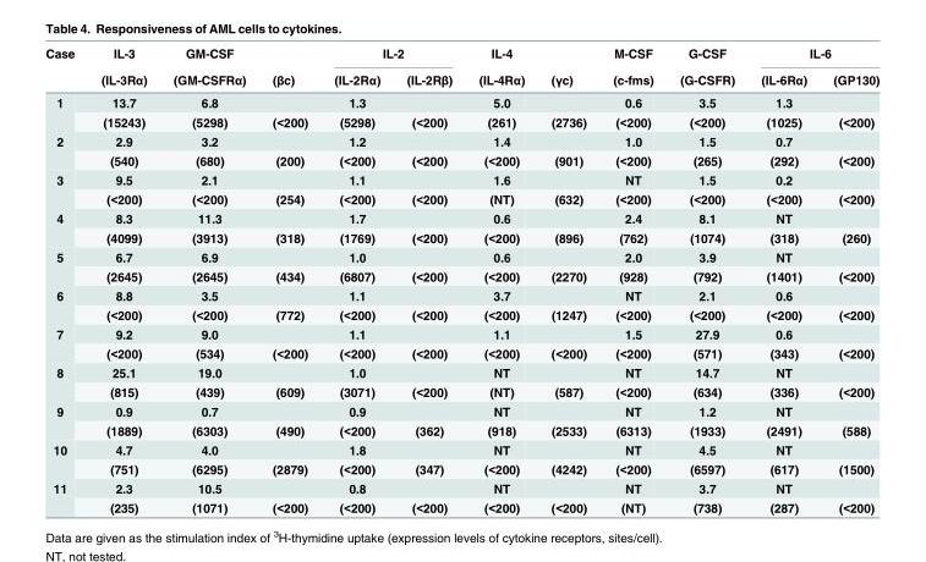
<table><thead><tr><td rowspan="2">Case</td><td rowspan="2">IL-3 (IL-3Rα)</td><td rowspan="2">GM-CSF (GM-CSFRα)</td><td rowspan="2">(βc)</td><td colspan="2">IL-2</td><td rowspan="2">IL-4 (IL-4Rα)</td><td rowspan="2">(γc)</td><td rowspan="2">M-CSF (c-fms)</td><td rowspan="2">G-CSF (G-CSFR)</td><td colspan="2">IL-6</td></tr><tr><td>(IL-2Rα)</td><td>(IL-2Rβ)</td><td>(IL-6Rα)</td><td>(GP130)</td></tr></thead><tbody><tr><td rowspan="2">1</td><td>13.7</td><td>6.8</td><td></td><td>1.3</td><td></td><td>5.0</td><td></td><td>0.6</td><td>3.5</td><td>1.3</td><td></td></tr><tr><td>(15243)</td><td>(5298)</td><td>(&lt;200)</td><td>(5298)</td><td>(&lt;200)</td><td>(261)</td><td>(2736)</td><td>(&lt;200)</td><td>(&lt;200)</td><td>(1025)</td><td>(&lt;200)</td></tr><tr><td rowspan="2">2</td><td>2.9</td><td>3.2</td><td></td><td>1.2</td><td></td><td>1.4</td><td></td><td>1.0</td><td>1.5</td><td>0.7</td><td></td></tr><tr><td>(540)</td><td>(680)</td><td>(200)</td><td>(&lt;200)</td><td>(&lt;200)</td><td>(&lt;200)</td><td>(901)</td><td>(&lt;200)</td><td>(265)</td><td>(292)</td><td>(&lt;200)</td></tr><tr><td rowspan="2">3</td><td>9.5</td><td>2.1</td><td></td><td>1.1</td><td></td><td>1.6</td><td></td><td>NT</td><td>1.5</td><td>0.2</td><td></td></tr><tr><td>(&lt;200)</td><td>(&lt;200)</td><td>(254)</td><td>(&lt;200)</td><td>(&lt;200)</td><td>(NT)</td><td>(632)</td><td>(&lt;200)</td><td>(&lt;200)</td><td>(&lt;200)</td><td>(&lt;200)</td></tr><tr><td rowspan="2">4</td><td>8.3</td><td>11.3</td><td></td><td>1.7</td><td></td><td>0.6</td><td></td><td>2.4</td><td>8.1</td><td>NT</td><td></td></tr><tr><td>(4099)</td><td>(3913)</td><td>(318)</td><td>(1769)</td><td>(&lt;200)</td><td>(&lt;200)</td><td>(896)</td><td>(762)</td><td>(1074)</td><td>(318)</td><td>(260)</td></tr><tr><td rowspan="2">5</td><td>6.7</td><td>6.9</td><td></td><td>1.0</td><td></td><td>0.6</td><td></td><td>2.0</td><td>3.9</td><td>NT</td><td></td></tr><tr><td>(2645)</td><td>(2645)</td><td>(434)</td><td>(6807)</td><td>(&lt;200)</td><td>(&lt;200)</td><td>(2270)</td><td>(928)</td><td>(792)</td><td>(1401)</td><td>(&lt;200)</td></tr><tr><td rowspan="2">6</td><td>8.8</td><td>3.5</td><td></td><td>1.1</td><td></td><td>3.7</td><td></td><td>NT</td><td>2.1</td><td>0.6</td><td></td></tr><tr><td>(&lt;200)</td><td>(&lt;200)</td><td>(772)</td><td>(&lt;200)</td><td>(&lt;200)</td><td>(&lt;200)</td><td>(1247)</td><td>(&lt;200)</td><td>(&lt;200)</td><td>(&lt;200)</td><td>(&lt;200)</td></tr><tr><td rowspan="2">7</td><td>9.2</td><td>9.0</td><td></td><td>1.1</td><td></td><td>1.1</td><td></td><td>1.5</td><td>27.9</td><td>0.6</td><td></td></tr><tr><td>(&lt;200)</td><td>(534)</td><td>(&lt;200)</td><td>(&lt;200)</td><td>(&lt;200)</td><td>(&lt;200)</td><td>(&lt;200)</td><td>(&lt;200)</td><td>(571)</td><td>(343)</td><td>(&lt;200)</td></tr><tr><td rowspan="2">8</td><td>25.1</td><td>19.0</td><td></td><td>1.0</td><td></td><td>NT</td><td></td><td>NT</td><td>14.7</td><td>NT</td><td></td></tr><tr><td>(815)</td><td>(439)</td><td>(609)</td><td>(3071)</td><td>(&lt;200)</td><td>(NT)</td><td>(587)</td><td>(&lt;200)</td><td>(634)</td><td>(336)</td><td>(&lt;200)</td></tr><tr><td rowspan="2">9</td><td>0.9</td><td>0.7</td><td></td><td>0.9</td><td></td><td>NT</td><td></td><td>NT</td><td>1.2</td><td>NT</td><td></td></tr><tr><td>(1889)</td><td>(6303)</td><td>(490)</td><td>(&lt;200)</td><td>(362)</td><td>(918)</td><td>(2533)</td><td>(6313)</td><td>(1933)</td><td>(2491)</td><td>(588)</td></tr><tr><td rowspan="2">10</td><td>4.7</td><td>4.0</td><td></td><td>1.8</td><td></td><td>NT</td><td></td><td>NT</td><td>4.5</td><td>NT</td><td></td></tr><tr><td>(751)</td><td>(6295)</td><td>(2879)</td><td>(&lt;200)</td><td>(347)</td><td>(&lt;200)</td><td>(4242)</td><td>(&lt;200)</td><td>(6597)</td><td>(617)</td><td>(1500)</td></tr><tr><td rowspan="2">11</td><td>2.3</td><td>10.5</td><td></td><td>0.8</td><td></td><td>NT</td><td></td><td>NT</td><td>3.7</td><td>NT</td><td></td></tr><tr><td>(235)</td><td>(1071)</td><td>(&lt;200)</td><td>(&lt;200)</td><td>(&lt;200)</td><td>(&lt;200)</td><td>(&lt;200)</td><td>(NT)</td><td>(738)</td><td>(287)</td><td>(&lt;200)</td></tr></tbody></table>